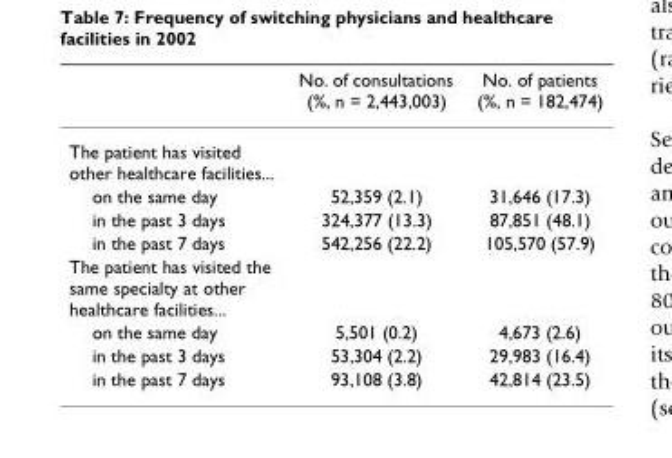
<table><thead><tr><td></td><td>No. of consultations (%, n = 2,443,003)</td><td>No. of patients (%, n = 182,474)</td></tr></thead><tbody><tr><td colspan="3">The patient has visited other healthcare facilities...</td></tr><tr><td>on the same day</td><td>52,359 (2.1)</td><td>31,646 (17.3)</td></tr><tr><td>in the past 3 days</td><td>324,377 (13.3)</td><td>87,851 (48.1)</td></tr><tr><td>in the past 7 days</td><td>542,256 (22.2)</td><td>105,570 (57.9)</td></tr><tr><td colspan="3">The patient has visited the same specialty at other healthcare facilities...</td></tr><tr><td>on the same day</td><td>5,501 (0.2)</td><td>4,673 (2.6)</td></tr><tr><td>in the past 3 days</td><td>53,304 (2.2)</td><td>29,983 (16.4)</td></tr><tr><td>in the past 7 days</td><td>93,108 (3.8)</td><td>42,814 (23.5)</td></tr></tbody></table>